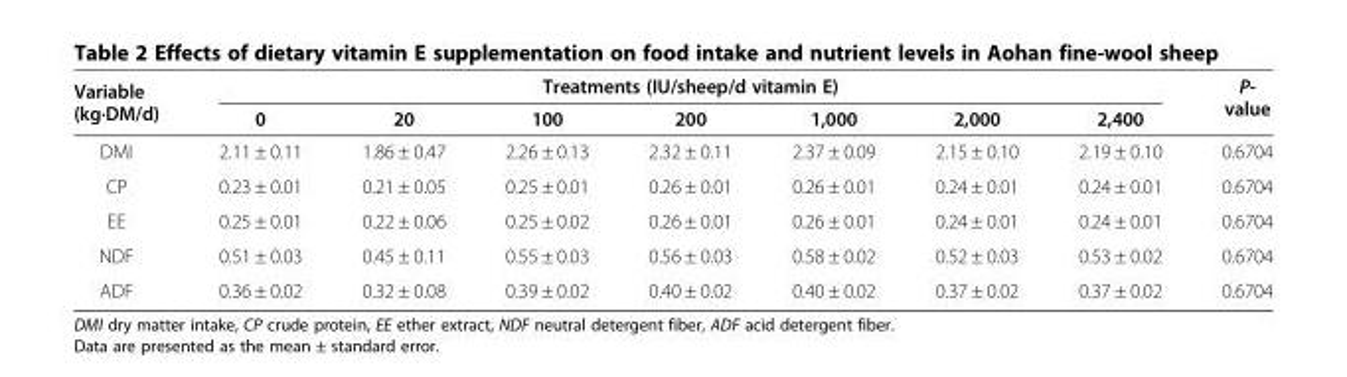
<table><thead><tr><td rowspan="2">Variable (kg·DM/d)</td><td colspan="7">Treatments (IU/sheep/d vitamin E)</td><td rowspan="2">P- value</td></tr><tr><td>0</td><td>20</td><td>100</td><td>200</td><td>1,000</td><td>2,000</td><td>2,400</td></tr></thead><tbody><tr><td>DMI</td><td>2.11 ± 0.11</td><td>1.86 ± 0.47</td><td>2.26 ± 0.13</td><td>2.32 ± 0.11</td><td>2.37 ± 0.09</td><td>2.15 ± 0.10</td><td>2.19 ± 0.10</td><td>0.6704</td></tr><tr><td>CP</td><td>0.23 ± 0.01</td><td>0.21 ± 0.05</td><td>0.25 ± 0.01</td><td>0.26 ± 0.01</td><td>0.26 ± 0.01</td><td>0.24 ± 0.01</td><td>0.24 ± 0.01</td><td>0.6704</td></tr><tr><td>EE</td><td>0.25 ± 0.01</td><td>0.22 ± 0.06</td><td>0.25 ± 0.02</td><td>0.26 ± 0.01</td><td>0.26 ± 0.01</td><td>0.24 ± 0.01</td><td>0.24 ± 0.01</td><td>0.6704</td></tr><tr><td>NDF</td><td>0.51 ± 0.03</td><td>0.45 ± 0.11</td><td>0.55 ± 0.03</td><td>0.56 ± 0.03</td><td>0.58 ± 0.02</td><td>0.52 ± 0.03</td><td>0.53 ± 0.02</td><td>0.6704</td></tr><tr><td>ADF</td><td>0.36 ± 0.02</td><td>0.32 ± 0.08</td><td>0.39 ± 0.02</td><td>0.40 ± 0.02</td><td>0.40 ± 0.02</td><td>0.37 ± 0.02</td><td>0.37 ± 0.02</td><td>0.6704</td></tr></tbody></table>